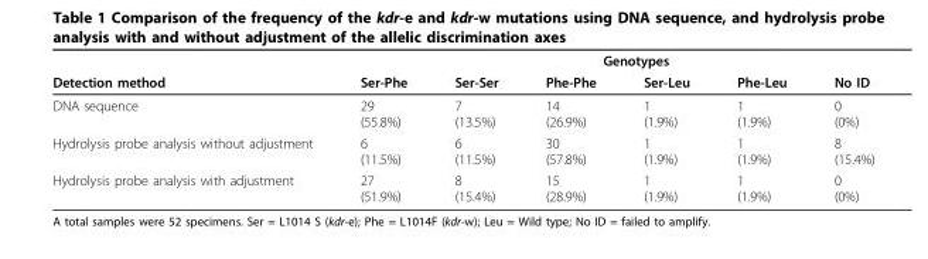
<table><thead><tr><td rowspan="2">Detection method</td><td colspan="6">Genotypes</td></tr><tr><td>Ser-Phe</td><td>Ser-Ser</td><td>Phe-Phe</td><td>Ser-Leu</td><td>Phe-Leu</td><td>No ID</td></tr></thead><tbody><tr><td>DNA sequence</td><td>29 (55.8%)</td><td>7 (13.5%)</td><td>14 (26.9%)</td><td>1 (1.9%)</td><td>1 (1.9%)</td><td>0 (0%)</td></tr><tr><td>Hydrolysis probe analysis without adjustment</td><td>6 (11.5%)</td><td>6 (11.5%)</td><td>30 (57.8%)</td><td>1 (1.9%)</td><td>1 (1.9%)</td><td>8 (15.4%)</td></tr><tr><td>Hydrolysis probe analysis with adjustment</td><td>27 (51.9%)</td><td>8 (15.4%)</td><td>15 (28.9%)</td><td>1 (1.9%)</td><td>1 (1.9%)</td><td>0 (0%)</td></tr></tbody></table>